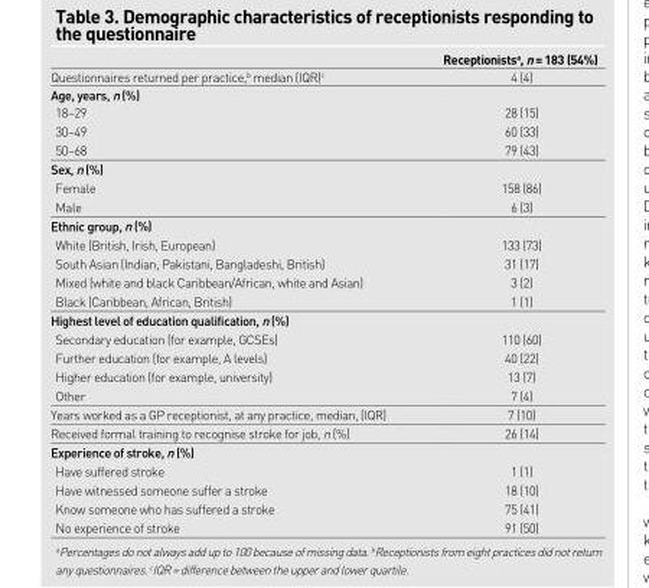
<table><thead><tr><td></td><td>Receptionists<sup>a</sup>, n = 183 (54%)</td></tr></thead><tbody><tr><td>Questionnaires returned per practice,<sup>b</sup> median (IQR)<sup>c</sup></td><td>4 (4)</td></tr><tr><td colspan="2">Age, years, n (%)</td></tr><tr><td>18–29</td><td>28 (15)</td></tr><tr><td>30–49</td><td>60 (33)</td></tr><tr><td>50–68</td><td>79 (43)</td></tr><tr><td colspan="2">Sex, n (%)</td></tr><tr><td>Female</td><td>158 (86)</td></tr><tr><td>Male</td><td>6 (3)</td></tr><tr><td colspan="2">Ethnic group, n (%)</td></tr><tr><td>White (British, Irish, European)</td><td>133 (73)</td></tr><tr><td>South Asian (Indian, Pakistani, Bangladeshi, British)</td><td>31 (17)</td></tr><tr><td>Mixed (white and black Caribbean/African, white and Asian)</td><td>3 (2)</td></tr><tr><td>Black (Caribbean, African, British)</td><td>1 (1)</td></tr><tr><td colspan="2">Highest level of education qualification, n (%)</td></tr><tr><td>Secondary education (for example, GCSEs)</td><td>110 (60)</td></tr><tr><td>Further education (for example, A levels)</td><td>40 (22)</td></tr><tr><td>Higher education (for example, university)</td><td>13 (7)</td></tr><tr><td>Other</td><td>7 (4)</td></tr><tr><td>Years worked as a GP receptionist, at any practice, median, (IQR)</td><td>7 (10)</td></tr><tr><td>Received formal training to recognise stroke for job, n (%)</td><td>26 (14)</td></tr><tr><td colspan="2">Experience of stroke, n (%)</td></tr><tr><td>Have suffered stroke</td><td>1 (1)</td></tr><tr><td>Have witnessed someone suffer a stroke</td><td>18 (10)</td></tr><tr><td>Know someone who has suffered a stroke</td><td>75 (41)</td></tr><tr><td>No experience of stroke</td><td>91 (50)</td></tr></tbody></table>